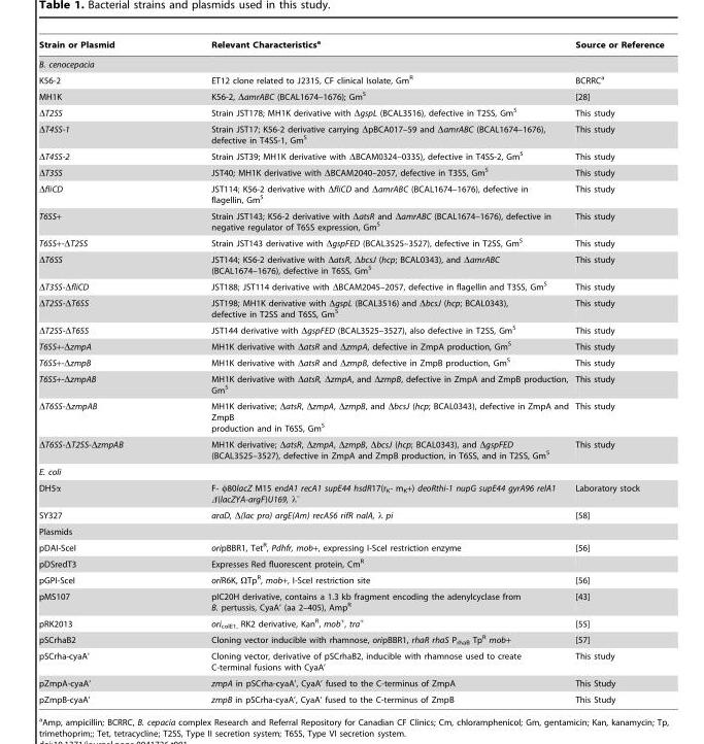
<table><thead><tr><td>Strain or Plasmid</td><td>Relevant Characteristics<sup>a</sup></td><td>Source or Reference</td></tr></thead><tbody><tr><td colspan="3">B. cenocepacia</td></tr><tr><td>K56-2</td><td>ET12 clone related to J2315, CF clinical Isolate, Gm<sup>R</sup></td><td>BCRRC<sup>a</sup></td></tr><tr><td>MH1K</td><td>K56-2, ΔamrABC (BCAL1674–1676); Gm<sup>S</sup></td><td>[28]</td></tr><tr><td>ΔT2SS</td><td>Strain JST178; MH1K derivative with ΔgspL (BCAL3516), defective in T2SS, Gm<sup>S</sup></td><td>This study</td></tr><tr><td>ΔT4SS-1</td><td>Strain JST17; K56-2 derivative carrying ΔpBCA017–59 and ΔamrABC (BCAL1674–1676), defective in T4SS-1, Gm<sup>S</sup></td><td>This study</td></tr><tr><td>ΔT4SS-2</td><td>Strain JST39; MH1K derivative with ΔBCAM0324–0335), defective in T4SS-2, Gm<sup>S</sup></td><td>This study</td></tr><tr><td>ΔT3SS</td><td>JST40; MH1K derivative with ΔBCAM2040–2057, defective in T3SS, Gm<sup>S</sup></td><td>This study</td></tr><tr><td>ΔfliCD</td><td>JST114; K56-2 derivative with ΔfliCD and ΔamrABC (BCAL1674–1676), defective in flagellin, Gm<sup>S</sup></td><td>This study</td></tr><tr><td>T6SS+</td><td>Strain JST143; K56-2 derivative with ΔatsR and ΔamrABC (BCAL1674–1676), defective in negative regulator of T6SS expression, Gm<sup>S</sup></td><td>This study</td></tr><tr><td>T6SS+-ΔT2SS</td><td>Strain JST143 derivative with ΔgspFED (BCAL3525–3527), defective in T2SS, Gm<sup>S</sup></td><td>This study</td></tr><tr><td>ΔT6SS</td><td>JST144; K56-2 derivative with ΔatsR, ΔbcsJ (hcp; BCAL0343), and ΔamrABC (BCAL1674–1676), defective in T6SS, Gm<sup>S</sup></td><td>This study</td></tr><tr><td>ΔT3SS-ΔfliCD</td><td>JST188; JST114 derivative with ΔBCAM2045–2057, defective in flagellin and T3SS, Gm<sup>S</sup></td><td>This study</td></tr><tr><td>ΔT2SS-ΔT6SS</td><td>JST198; MH1K derivative with ΔgspL (BCAL3516) and ΔbcsJ (hcp; BCAL0343), defective in T2SS and T6SS, Gm<sup>S</sup></td><td>This study</td></tr><tr><td>ΔT2SS-ΔT6SS</td><td>JST144 derivative with ΔgspFED (BCAL3525–3527), also defective in T2SS, Gm<sup>S</sup></td><td>This study</td></tr><tr><td>T6SS+-ΔzmpA</td><td>MH1K derivative with ΔatsR and ΔzmpA, defective in ZmpA production, Gm<sup>S</sup></td><td>This study</td></tr><tr><td>T6SS+-ΔzmpB</td><td>MH1K derivative with ΔatsR and ΔzmpB, defective in ZmpB production, Gm<sup>S</sup></td><td>This study</td></tr><tr><td>T6SS+-ΔzmpAB</td><td>MH1K derivative with ΔatsR, ΔzmpA, and ΔzmpB, defective in ZmpA and ZmpB production, Gm<sup>S</sup></td><td>This study</td></tr><tr><td>ΔT6SS-ΔzmpAB</td><td>MH1K derivative; ΔatsR, ΔzmpA, ΔzmpB, and ΔbcsJ (hcp; BCAL0343), defective in ZmpA and ZmpB production and in T6SS, Gm<sup>S</sup></td><td>This study</td></tr><tr><td>ΔT6SS-ΔT2SS-ΔzmpAB</td><td>MH1K derivative; ΔatsR, ΔzmpA, ΔzmpB, ΔbcsJ (hcp; BCAL0343), and ΔgspFED (BCAL3525–3527), defective in ZmpA and ZmpB production, in T6SS, and in T2SS, Gm<sup>S</sup></td><td>This study</td></tr><tr><td colspan="3">E. coli</td></tr><tr><td>DH5α</td><td>F- φ80lacZ M15 endA1 recA1 supE44 hsdR17(r<sub>K</sub>- m<sub>K</sub>+) deoRthi-1 nupG supE44 gyrA96 relA1 Δ(lacZYA-argF)U169, λ<sup>–</sup></td><td>Laboratory stock</td></tr><tr><td>SY327</td><td>araD, Δ(lac pro) argE(Am) recA56 rifR nalA, λ pi</td><td>[58]</td></tr><tr><td colspan="3">Plasmids</td></tr><tr><td>pDAI-SceI</td><td>oripBBR1, Tet<sup>R</sup>, Pdhfr, mob+, expressing I-SceI restriction enzyme</td><td>[56]</td></tr><tr><td>pDSredT3</td><td>Expresses Red fluorescent protein, Cm<sup>R</sup></td><td></td></tr><tr><td>pGPI-SceI</td><td>oriR6K, ΩTp<sup>R</sup>, mob+, I-SceI restriction site</td><td>[56]</td></tr><tr><td>pMS107</td><td>pIC20H derivative, contains a 1.3 kb fragment encoding the adenylcyclase from B. pertussis, CyaA’ (aa 2–405), Amp<sup>R</sup></td><td>[43]</td></tr><tr><td>pRK2013</td><td>ori<sub>colE1,</sub> RK2 derivative, Kan<sup>R</sup>, mob<sup>+</sup>, tra<sup>+</sup></td><td>[55]</td></tr><tr><td>pSCrhaB2</td><td>Cloning vector inducible with rhamnose, oripBBR1, rhaR rhaS P<sub>rhaB</sub> Tp<sup>R</sup> mob+</td><td>[57]</td></tr><tr><td>pSCrha-cyaA’</td><td>Cloning vector, derivative of pSCrhaB2, inducible with rhamnose used to create C-terminal fusions with CyaA’</td><td>This study</td></tr><tr><td>pZmpA-cyaA’</td><td>zmpA in pSCrha-cyaA’, CyaA’ fused to the C-terminus of ZmpA</td><td>This Study</td></tr><tr><td>pZmpB-cyaA’</td><td>zmpB in pSCrha-cyaA’, CyaA’ fused to the C-terminus of ZmpB</td><td>This Study</td></tr></tbody></table>